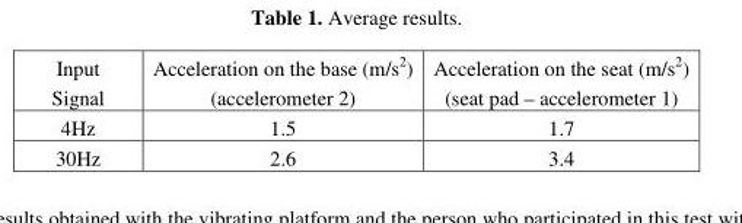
<table><thead><tr><td>Input Signal</td><td>Acceleration on the base (m/s<sup>2</sup>) (accelerometer 2)</td><td>Acceleration on the seat (m/s<sup>2</sup>) (seat pad – accelerometer 1)</td></tr></thead><tbody><tr><td>4Hz</td><td>1.5</td><td>1.7</td></tr><tr><td>30Hz</td><td>2.6</td><td>3.4</td></tr></tbody></table>